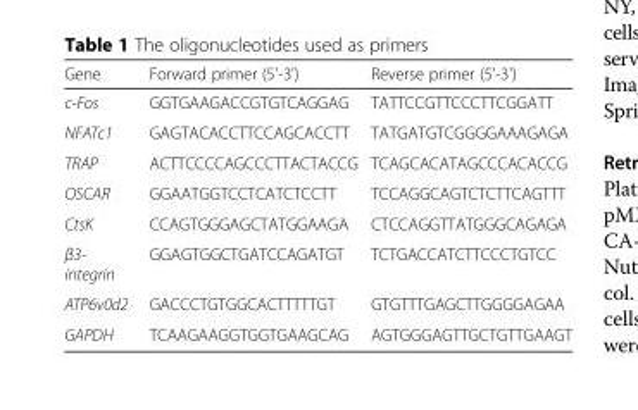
<table><thead><tr><td>Gene</td><td>Forward primer (5&#x27;-3&#x27;)</td><td>Reverse primer (5&#x27;-3&#x27;)</td></tr></thead><tbody><tr><td>c-Fos</td><td>GGTGAAGACCGTGTCAGGAG</td><td>TATTCCGTTCCCTTCGGATT</td></tr><tr><td>NFATc1</td><td>GAGTACACCTTCCAGCACCTT</td><td>TATGATGTCGGGGAAAGAGA</td></tr><tr><td>TRAP</td><td>ACTTCCCCAGCCCTTACTACCG</td><td>TCAGCACATAGCCCACACCG</td></tr><tr><td>OSCAR</td><td>GGAATGGTCCTCATCTCCTT</td><td>TCCAGGCAGTCTCTTCAGTTT</td></tr><tr><td>CtsK</td><td>CCAGTGGGAGCTATGGAAGA</td><td>CTCCAGGTTATGGGCAGAGA</td></tr><tr><td>β3- integrin</td><td>GGAGTGGCTGATCCAGATGT</td><td>TCTGACCATCTTCCCTGTCC</td></tr><tr><td>ATP6v0d2</td><td>GACCCTGTGGCACTTTTTGT</td><td>GTGTTTGAGCTTGGGGAGAA</td></tr><tr><td>GAPDH</td><td>TCAAGAAGGTGGTGAAGCAG</td><td>AGTGGGAGTTGCTGTTGAAGT</td></tr></tbody></table>